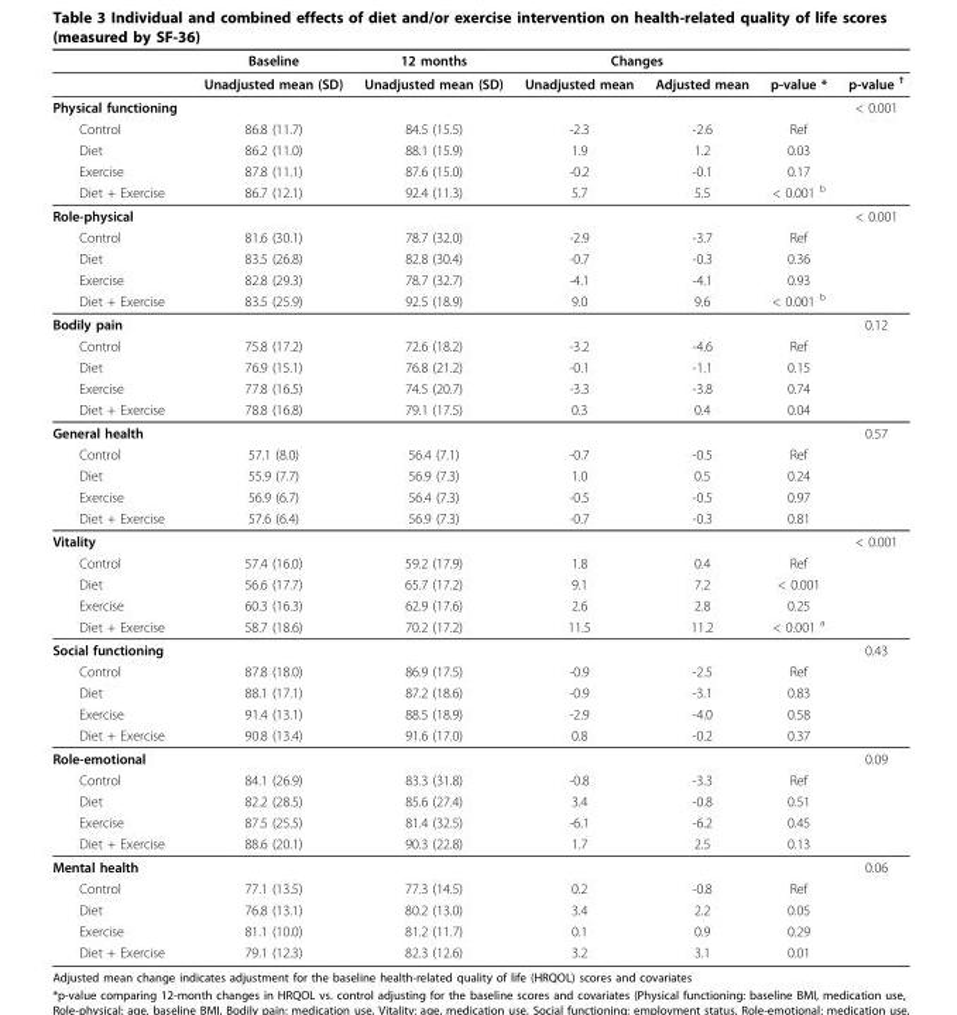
<table><thead><tr><td rowspan="2"></td><td rowspan="2">Baseline Unadjusted mean (SD)</td><td rowspan="2">12 months Unadjusted mean (SD)</td><td colspan="2">Changes</td><td rowspan="2">p-value *</td><td rowspan="2">p-value †</td></tr><tr><td>Unadjusted mean</td><td>Adjusted mean</td></tr></thead><tbody><tr><td>Physical functioning</td><td></td><td></td><td></td><td></td><td></td><td>&lt; 0.001</td></tr><tr><td>Control</td><td>86.8 (11.7)</td><td>84.5 (15.5)</td><td>-2.3</td><td>-2.6</td><td>Ref</td><td></td></tr><tr><td>Diet</td><td>86.2 (11.0)</td><td>88.1 (15.9)</td><td>1.9</td><td>1.2</td><td>0.03</td><td></td></tr><tr><td>Exercise</td><td>87.8 (11.1)</td><td>87.6 (15.0)</td><td>-0.2</td><td>-0.1</td><td>0.17</td><td></td></tr><tr><td>Diet + Exercise</td><td>86.7 (12.1)</td><td>92.4 (11.3)</td><td>5.7</td><td>5.5</td><td>&lt; 0.001 b</td><td></td></tr><tr><td>Role-physical</td><td></td><td></td><td></td><td></td><td></td><td>&lt; 0.001</td></tr><tr><td>Control</td><td>81.6 (30.1)</td><td>78.7 (32.0)</td><td>-2.9</td><td>-3.7</td><td>Ref</td><td></td></tr><tr><td>Diet</td><td>83.5 (26.8)</td><td>82.8 (30.4)</td><td>-0.7</td><td>-0.3</td><td>0.36</td><td></td></tr><tr><td>Exercise</td><td>82.8 (29.3)</td><td>78.7 (32.7)</td><td>-4.1</td><td>-4.1</td><td>0.93</td><td></td></tr><tr><td>Diet + Exercise</td><td>83.5 (25.9)</td><td>92.5 (18.9)</td><td>9.0</td><td>9.6</td><td>&lt; 0.001 b</td><td></td></tr><tr><td>Bodily pain</td><td></td><td></td><td></td><td></td><td></td><td>0.12</td></tr><tr><td>Control</td><td>75.8 (17.2)</td><td>72.6 (18.2)</td><td>-3.2</td><td>-4.6</td><td>Ref</td><td></td></tr><tr><td>Diet</td><td>76.9 (15.1)</td><td>76.8 (21.2)</td><td>-0.1</td><td>-1.1</td><td>0.15</td><td></td></tr><tr><td>Exercise</td><td>77.8 (16.5)</td><td>74.5 (20.7)</td><td>-3.3</td><td>-3.8</td><td>0.74</td><td></td></tr><tr><td>Diet + Exercise</td><td>78.8 (16.8)</td><td>79.1 (17.5)</td><td>0.3</td><td>0.4</td><td>0.04</td><td></td></tr><tr><td>General health</td><td></td><td></td><td></td><td></td><td></td><td>0.57</td></tr><tr><td>Control</td><td>57.1 (8.0)</td><td>56.4 (7.1)</td><td>-0.7</td><td>-0.5</td><td>Ref</td><td></td></tr><tr><td>Diet</td><td>55.9 (7.7)</td><td>56.9 (7.3)</td><td>1.0</td><td>0.5</td><td>0.24</td><td></td></tr><tr><td>Exercise</td><td>56.9 (6.7)</td><td>56.4 (7.3)</td><td>-0.5</td><td>-0.5</td><td>0.97</td><td></td></tr><tr><td>Diet + Exercise</td><td>57.6 (6.4)</td><td>56.9 (7.3)</td><td>-0.7</td><td>-0.3</td><td>0.81</td><td></td></tr><tr><td>Vitality</td><td></td><td></td><td></td><td></td><td></td><td>&lt; 0.001</td></tr><tr><td>Control</td><td>57.4 (16.0)</td><td>59.2 (17.9)</td><td>1.8</td><td>0.4</td><td>Ref</td><td></td></tr><tr><td>Diet</td><td>56.6 (17.7)</td><td>65.7 (17.2)</td><td>9.1</td><td>7.2</td><td>&lt; 0.001</td><td></td></tr><tr><td>Exercise</td><td>60.3 (16.3)</td><td>62.9 (17.6)</td><td>2.6</td><td>2.8</td><td>0.25</td><td></td></tr><tr><td>Diet + Exercise</td><td>58.7 (18.6)</td><td>70.2 (17.2)</td><td>11.5</td><td>11.2</td><td>&lt; 0.001 a</td><td></td></tr><tr><td>Social functioning</td><td></td><td></td><td></td><td></td><td></td><td>0.43</td></tr><tr><td>Control</td><td>87.8 (18.0)</td><td>86.9 (17.5)</td><td>-0.9</td><td>-2.5</td><td>Ref</td><td></td></tr><tr><td>Diet</td><td>88.1 (17.1)</td><td>87.2 (18.6)</td><td>-0.9</td><td>-3.1</td><td>0.83</td><td></td></tr><tr><td>Exercise</td><td>91.4 (13.1)</td><td>88.5 (18.9)</td><td>-2.9</td><td>-4.0</td><td>0.58</td><td></td></tr><tr><td>Diet + Exercise</td><td>90.8 (13.4)</td><td>91.6 (17.0)</td><td>0.8</td><td>-0.2</td><td>0.37</td><td></td></tr><tr><td>Role-emotional</td><td></td><td></td><td></td><td></td><td></td><td>0.09</td></tr><tr><td>Control</td><td>84.1 (26.9)</td><td>83.3 (31.8)</td><td>-0.8</td><td>-3.3</td><td>Ref</td><td></td></tr><tr><td>Diet</td><td>82.2 (28.5)</td><td>85.6 (27.4)</td><td>3.4</td><td>-0.8</td><td>0.51</td><td></td></tr><tr><td>Exercise</td><td>87.5 (25.5)</td><td>81.4 (32.5)</td><td>-6.1</td><td>-6.2</td><td>0.45</td><td></td></tr><tr><td>Diet + Exercise</td><td>88.6 (20.1)</td><td>90.3 (22.8)</td><td>1.7</td><td>2.5</td><td>0.13</td><td></td></tr><tr><td>Mental health</td><td></td><td></td><td></td><td></td><td></td><td>0.06</td></tr><tr><td>Control</td><td>77.1 (13.5)</td><td>77.3 (14.5)</td><td>0.2</td><td>-0.8</td><td>Ref</td><td></td></tr><tr><td>Diet</td><td>76.8 (13.1)</td><td>80.2 (13.0)</td><td>3.4</td><td>2.2</td><td>0.05</td><td></td></tr><tr><td>Exercise</td><td>81.1 (10.0)</td><td>81.2 (11.7)</td><td>0.1</td><td>0.9</td><td>0.29</td><td></td></tr><tr><td>Diet + Exercise</td><td>79.1 (12.3)</td><td>82.3 (12.6)</td><td>3.2</td><td>3.1</td><td>0.01</td><td></td></tr></tbody></table>